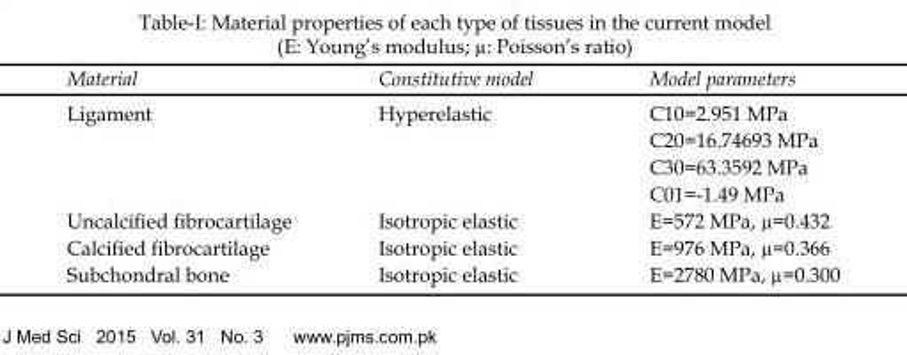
<table><thead><tr><td>Material</td><td>Constitutive model</td><td>Model parameters</td></tr></thead><tbody><tr><td rowspan="4">Ligament</td><td rowspan="4">Hyperelastic</td><td>C10=2.951 MPa</td></tr><tr><td>C20=16.74693 MPa</td></tr><tr><td>C30=63.3592 MPa</td></tr><tr><td>C01=-1.49 MPa</td></tr><tr><td>Uncalcified fibrocartilage</td><td>Isotropic elastic</td><td>E=572 MPa, µ=0.432</td></tr><tr><td>Calcified fibrocartilage</td><td>Isotropic elastic</td><td>E=976 MPa, µ=0.366</td></tr><tr><td>Subchondral bone</td><td>Isotropic elastic</td><td>E=2780 MPa, µ=0.300</td></tr></tbody></table>